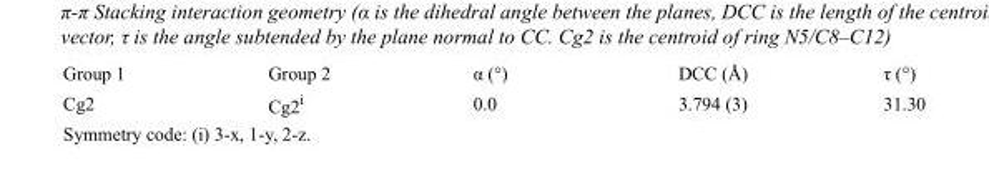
<table><tbody><tr><td>Group 1</td><td>Group 2</td><td>α (°)</td><td>DCC (Å)</td><td>τ (°)</td></tr><tr><td>Cg2</td><td>Cg2<sup>i</sup></td><td>0.0</td><td>3.794 (3)</td><td>31.30</td></tr></tbody></table>